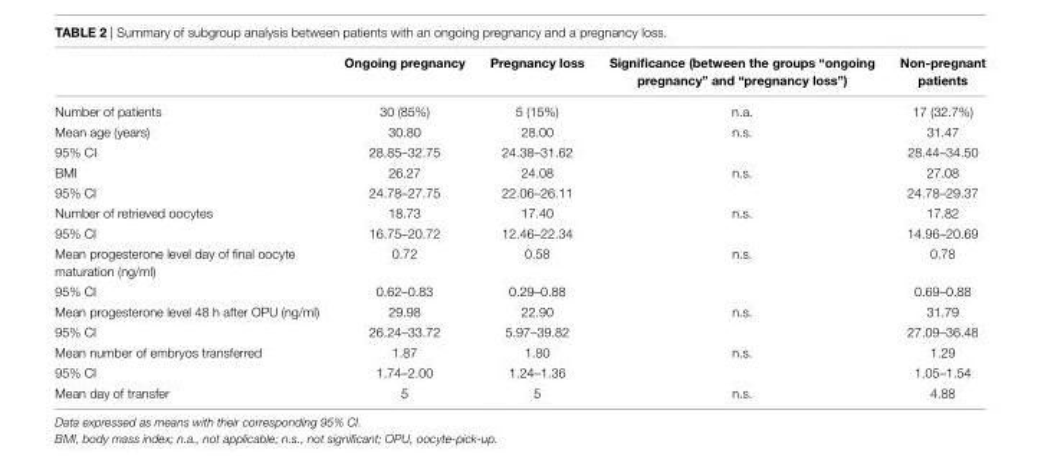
<table><thead><tr><td></td><td>Ongoing pregnancy</td><td>Pregnancy loss</td><td>significance (between the groups “ongoing pregnancy” and “pregnancy loss”)</td><td>non-pregnant patients</td></tr></thead><tbody><tr><td>Number of patients</td><td>30 (85%)</td><td>5 (15%)</td><td>n.a.</td><td>17 (32.7%)</td></tr><tr><td>Mean age (years)</td><td>30.80</td><td>28.00</td><td>n.s.</td><td>31.47</td></tr><tr><td>95% CI</td><td>28.85–32.75</td><td>24.38–31.62</td><td></td><td>28.44–34.50</td></tr><tr><td>BMI</td><td>26.27</td><td>24.08</td><td>n.s.</td><td>27.08</td></tr><tr><td>95% CI</td><td>24.78–27.75</td><td>22.06–26.11</td><td></td><td>24.78–29.37</td></tr><tr><td>Number of retrieved oocytes</td><td>18.73</td><td>17.40</td><td>n.s.</td><td>17.82</td></tr><tr><td>95% CI</td><td>16.75–20.72</td><td>12.46–22.34</td><td></td><td>14.96–20.69</td></tr><tr><td>Mean progesterone level day of final oocyte maturation (ng/ml)</td><td>0.72</td><td>0.58</td><td>n.s.</td><td>0.78</td></tr><tr><td>95% CI</td><td>0.62–0.83</td><td>0.29–0.88</td><td></td><td>0.69–0.88</td></tr><tr><td>Mean progesterone level 48 h after OPU (ng/ml)</td><td>29.98</td><td>22.90</td><td>n.s.</td><td>31.79</td></tr><tr><td>95% CI</td><td>26.24–33.72</td><td>5.97–39.82</td><td></td><td>27.09–36.48</td></tr><tr><td>Mean number of embryos transferred</td><td>1.87</td><td>1.80</td><td>n.s.</td><td>1.29</td></tr><tr><td>95% CI</td><td>1.74–2.00</td><td>1.24–1.36</td><td></td><td>1.05–1.54</td></tr><tr><td>Mean day of transfer</td><td>5</td><td>5</td><td>n.s.</td><td>4.88</td></tr></tbody></table>